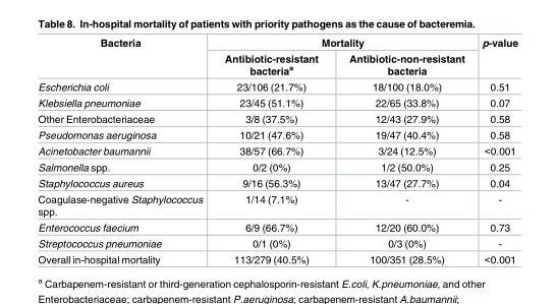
<table><thead><tr><td rowspan="2">Bacteria</td><td colspan="2">Mortality</td><td rowspan="2">p-value</td></tr><tr><td>Antibiotic-resistant bacteria<sup>a</sup></td><td>Antibiotic-non-resistant bacteria</td></tr></thead><tbody><tr><td>Escherichia coli</td><td>23/106 (21.7%)</td><td>18/100 (18.0%)</td><td>0.51</td></tr><tr><td>Klebsiella pneumoniae</td><td>23/45 (51.1%)</td><td>22/65 (33.8%)</td><td>0.07</td></tr><tr><td>Other Enterobacteriaceae</td><td>3/8 (37.5%)</td><td>12/43 (27.9%)</td><td>0.58</td></tr><tr><td>Pseudomonas aeruginosa</td><td>10/21 (47.6%)</td><td>19/47 (40.4%)</td><td>0.58</td></tr><tr><td>Acinetobacter baumannii</td><td>38/57 (66.7%)</td><td>3/24 (12.5%)</td><td>&lt;0.001</td></tr><tr><td>Salmonella spp.</td><td>0/2 (0%)</td><td>1/2 (50.0%)</td><td>0.25</td></tr><tr><td>Staphylococcus aureus</td><td>9/16 (56.3%)</td><td>13/47 (27.7%)</td><td>0.04</td></tr><tr><td>Coagulase-negative Staphylococcus spp.</td><td>1/14 (7.1%)</td><td>-</td><td>-</td></tr><tr><td>Enterococcus faecium</td><td>6/9 (66.7%)</td><td>12/20 (60.0%)</td><td>0.73</td></tr><tr><td>Streptococcus pneumoniae</td><td>0/1 (0%)</td><td>0/3 (0%)</td><td>-</td></tr><tr><td>Overall in-hospital mortality</td><td>113/279 (40.5%)</td><td>100/351 (28.5%)</td><td>&lt;0.001</td></tr></tbody></table>